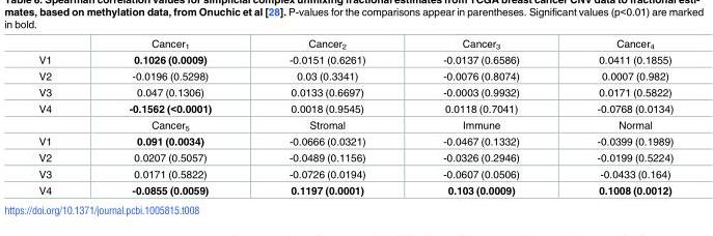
<table><thead><tr><td></td><td>Cancer<sub>1</sub></td><td>Cancer<sub>2</sub></td><td>Cancer<sub>3</sub></td><td>Cancer<sub>4</sub></td></tr></thead><tbody><tr><td>V1</td><td>0.1026 (0.0009)</td><td>-0.0151 (0.6261)</td><td>-0.0137 (0.6586)</td><td>0.0411 (0.1855)</td></tr><tr><td>V2</td><td>-0.0196 (0.5298)</td><td>0.03 (0.3341)</td><td>-0.0076 (0.8074)</td><td>0.0007 (0.982)</td></tr><tr><td>V3</td><td>0.047 (0.1306)</td><td>0.0133 (0.6697)</td><td>-0.0003 (0.9932)</td><td>0.0171 (0.5822)</td></tr><tr><td rowspan="2">V4</td><td>-0.1562 (&lt;0.0001)</td><td>0.0018 (0.9545)</td><td>0.0118 (0.7041)</td><td>-0.0768 (0.0134)</td></tr><tr><td>Cancer<sub>5</sub></td><td>Stromal</td><td>Immune</td><td>Normal</td></tr><tr><td>V1</td><td>0.091 (0.0034)</td><td>-0.0666 (0.0321)</td><td>-0.0467 (0.1332)</td><td>-0.0399 (0.1989)</td></tr><tr><td>V2</td><td>0.0207 (0.5057)</td><td>-0.0489 (0.1156)</td><td>-0.0326 (0.2946)</td><td>-0.0199 (0.5224)</td></tr><tr><td>V3</td><td>0.0171 (0.5822)</td><td>-0.0726 (0.0194)</td><td>-0.0607 (0.0506)</td><td>-0.0433 (0.164)</td></tr><tr><td>V4</td><td>-0.0855 (0.0059)</td><td>0.1197 (0.0001)</td><td>0.103 (0.0009)</td><td>0.1008 (0.0012)</td></tr></tbody></table>